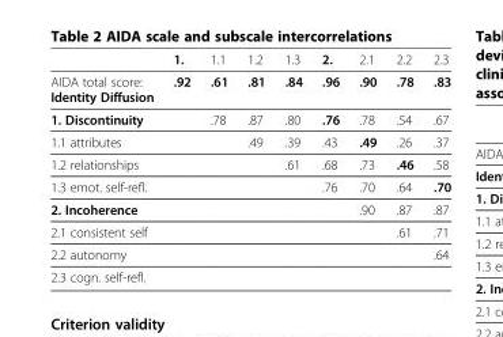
<table><thead><tr><td></td><td>1.</td><td>1.1</td><td>1.2</td><td>1.3</td><td>2.</td><td>2.1</td><td>2.2</td><td>2.3</td></tr></thead><tbody><tr><td>AIDA total score: Identity Diffusion</td><td>.92</td><td>.61</td><td>.81</td><td>.84</td><td>.96</td><td>.90</td><td>.78</td><td>.83</td></tr><tr><td>1. Discontinuity</td><td></td><td>.78</td><td>.87</td><td>.80</td><td>.76</td><td>.78</td><td>.54</td><td>.67</td></tr><tr><td>1.1 attributes</td><td></td><td></td><td>.49</td><td>.39</td><td>.43</td><td>.49</td><td>.26</td><td>.37</td></tr><tr><td>1.2 relationships</td><td></td><td></td><td></td><td>.61</td><td>.68</td><td>.73</td><td>.46</td><td>.58</td></tr><tr><td>1.3 emot. self-refl.</td><td></td><td></td><td></td><td></td><td>.76</td><td>.70</td><td>.64</td><td>.70</td></tr><tr><td>2. Incoherence</td><td></td><td></td><td></td><td></td><td></td><td>.90</td><td>.87</td><td>.87</td></tr><tr><td>2.1 consistent self</td><td></td><td></td><td></td><td></td><td></td><td></td><td>.61</td><td>.71</td></tr><tr><td>2.2 autonomy</td><td></td><td></td><td></td><td></td><td></td><td></td><td></td><td>.64</td></tr><tr><td>2.3 cogn. self-refl.</td><td></td><td></td><td></td><td></td><td></td><td></td><td></td><td></td></tr></tbody></table>